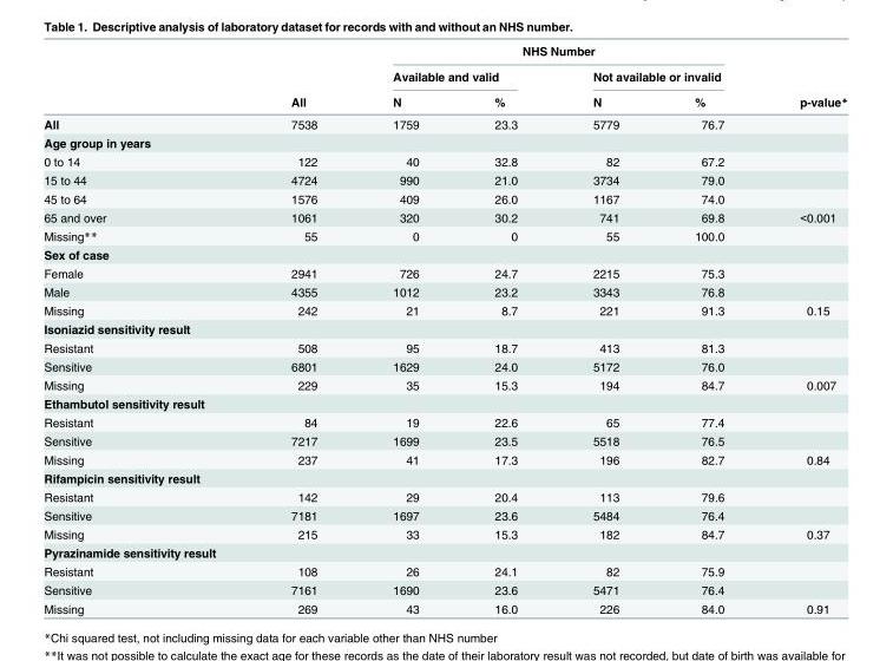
<table><thead><tr><td rowspan="3"></td><td rowspan="3">All</td><td colspan="4">NHS Number</td><td rowspan="3">p-value*</td></tr><tr><td colspan="2">Available and valid</td><td colspan="2">Not available or invalid</td></tr><tr><td>N</td><td>%</td><td>N</td><td>%</td></tr></thead><tbody><tr><td>All</td><td>7538</td><td>1759</td><td>23.3</td><td>5779</td><td>76.7</td><td></td></tr><tr><td colspan="7">Age group in years</td></tr><tr><td>0 to 14</td><td>122</td><td>40</td><td>32.8</td><td>82</td><td>67.2</td><td></td></tr><tr><td>15 to 44</td><td>4724</td><td>990</td><td>21.0</td><td>3734</td><td>79.0</td><td></td></tr><tr><td>45 to 64</td><td>1576</td><td>409</td><td>26.0</td><td>1167</td><td>74.0</td><td></td></tr><tr><td>65 and over</td><td>1061</td><td>320</td><td>30.2</td><td>741</td><td>69.8</td><td>&lt;0.001</td></tr><tr><td>Missing**</td><td>55</td><td>0</td><td>0</td><td>55</td><td>100.0</td><td></td></tr><tr><td colspan="7">Sex of case</td></tr><tr><td>Female</td><td>2941</td><td>726</td><td>24.7</td><td>2215</td><td>75.3</td><td></td></tr><tr><td>Male</td><td>4355</td><td>1012</td><td>23.2</td><td>3343</td><td>76.8</td><td></td></tr><tr><td>Missing</td><td>242</td><td>21</td><td>8.7</td><td>221</td><td>91.3</td><td>0.15</td></tr><tr><td colspan="7">Isoniazid sensitivity result</td></tr><tr><td>Resistant</td><td>508</td><td>95</td><td>18.7</td><td>413</td><td>81.3</td><td></td></tr><tr><td>Sensitive</td><td>6801</td><td>1629</td><td>24.0</td><td>5172</td><td>76.0</td><td></td></tr><tr><td>Missing</td><td>229</td><td>35</td><td>15.3</td><td>194</td><td>84.7</td><td>0.007</td></tr><tr><td colspan="7">Ethambutol sensitivity result</td></tr><tr><td>Resistant</td><td>84</td><td>19</td><td>22.6</td><td>65</td><td>77.4</td><td></td></tr><tr><td>Sensitive</td><td>7217</td><td>1699</td><td>23.5</td><td>5518</td><td>76.5</td><td></td></tr><tr><td>Missing</td><td>237</td><td>41</td><td>17.3</td><td>196</td><td>82.7</td><td>0.84</td></tr><tr><td colspan="7">Rifampicin sensitivity result</td></tr><tr><td>Resistant</td><td>142</td><td>29</td><td>20.4</td><td>113</td><td>79.6</td><td></td></tr><tr><td>Sensitive</td><td>7181</td><td>1697</td><td>23.6</td><td>5484</td><td>76.4</td><td></td></tr><tr><td>Missing</td><td>215</td><td>33</td><td>15.3</td><td>182</td><td>84.7</td><td>0.37</td></tr><tr><td colspan="7">Pyrazinamide sensitivity result</td></tr><tr><td>Resistant</td><td>108</td><td>26</td><td>24.1</td><td>82</td><td>75.9</td><td></td></tr><tr><td>Sensitive</td><td>7161</td><td>1690</td><td>23.6</td><td>5471</td><td>76.4</td><td></td></tr><tr><td>Missing</td><td>269</td><td>43</td><td>16.0</td><td>226</td><td>84.0</td><td>0.91</td></tr></tbody></table>